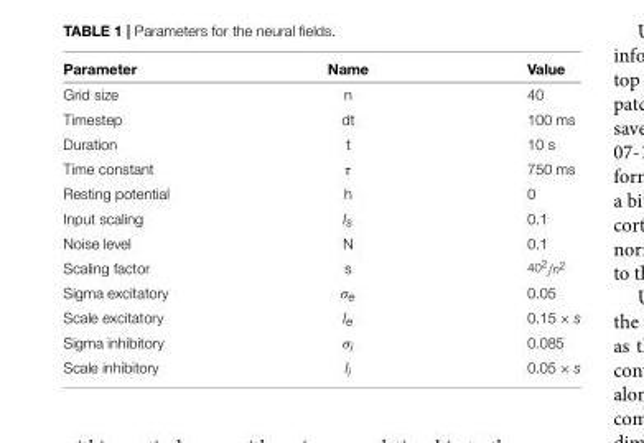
<table><thead><tr><td>Parameter</td><td>Name</td><td>Value</td></tr></thead><tbody><tr><td>Grid size</td><td>n</td><td>40</td></tr><tr><td>Timestep</td><td>dt</td><td>100 ms</td></tr><tr><td>Duration</td><td>t</td><td>10 s</td></tr><tr><td>Time constant</td><td>τ</td><td>750 ms</td></tr><tr><td>Resting potential</td><td>h</td><td>0</td></tr><tr><td>Input scaling</td><td>I<sub>s</sub></td><td>0.1</td></tr><tr><td>Noise level</td><td>N</td><td>0.1</td></tr><tr><td>Scaling factor</td><td>s</td><td>40<sup>2</sup>/n<sup>2</sup></td></tr><tr><td>Sigma excitatory</td><td>σ<sub>e</sub></td><td>0.05</td></tr><tr><td>Scale excitatory</td><td>I<sub>e</sub></td><td>0.15 × s</td></tr><tr><td>Sigma inhibitory</td><td>σ<sub>i</sub></td><td>0.085</td></tr><tr><td>Scale inhibitory</td><td>I<sub>i</sub></td><td>0.05 × s</td></tr></tbody></table>